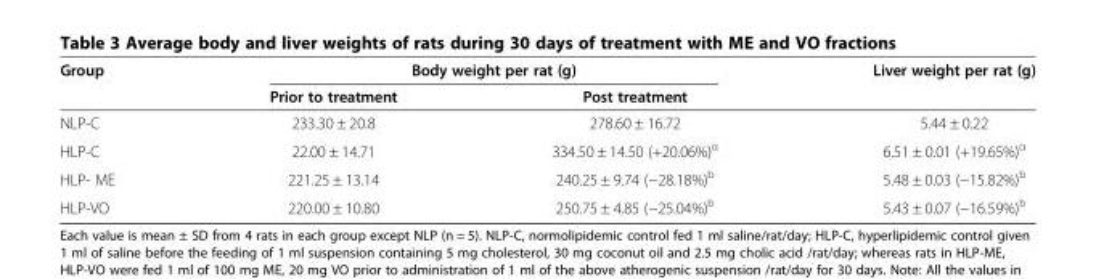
<table><thead><tr><td rowspan="2">Group</td><td colspan="2">Body weight per rat (g)</td><td rowspan="2">Liver weight per rat (g)</td></tr><tr><td>Prior to treatment</td><td>Post treatment</td></tr></thead><tbody><tr><td>NLP-C</td><td>233.30 ± 20.8</td><td>278.60 ± 16.72</td><td>5.44 ± 0.22</td></tr><tr><td>HLP-C</td><td>22.00 ± 14.71</td><td>334.50 ± 14.50 (+20.06%)<sup>α</sup></td><td>6.51 ± 0.01 (+19.65%)<sup>α</sup></td></tr><tr><td>HLP- ME</td><td>221.25 ± 13.14</td><td>240.25 ± 9.74 (−28.18%)<sup>b</sup></td><td>5.48 ± 0.03 (−15.82%)<sup>b</sup></td></tr><tr><td>HLP-VO</td><td>220.00 ± 10.80</td><td>250.75 ± 4.85 (−25.04%)<sup>b</sup></td><td>5.43 ± 0.07 (−16.59%)<sup>b</sup></td></tr></tbody></table>